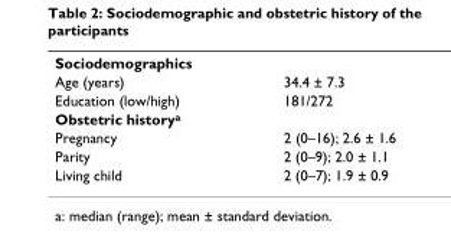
<table><tbody><tr><td colspan="2">Sociodemographics</td></tr><tr><td>Age (years)</td><td>34.4 ± 7.3</td></tr><tr><td>Education (low/high)</td><td>181/272</td></tr><tr><td colspan="2">Obstetric history<sup>a</sup></td></tr><tr><td>Pregnancy</td><td>2 (0–16); 2.6 ± 1.6</td></tr><tr><td>Parity</td><td>2 (0–9); 2.0 ± 1.1</td></tr><tr><td>Living child</td><td>2 (0–7); 1.9 ± 0.9</td></tr></tbody></table>